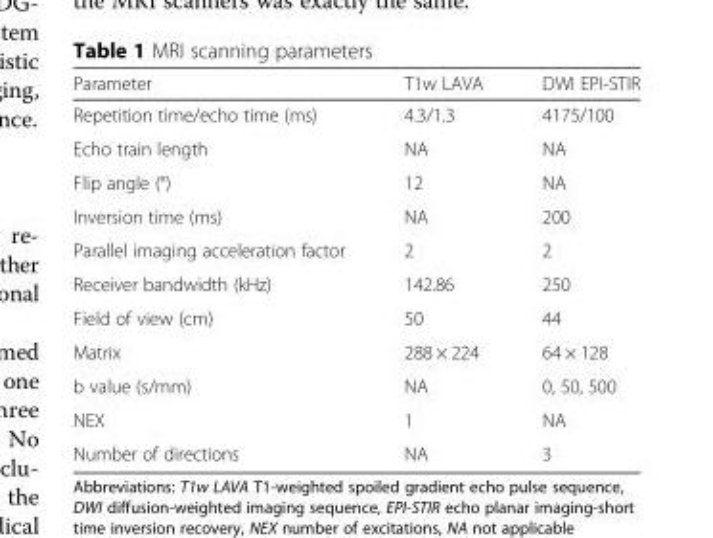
<table><thead><tr><td>Parameter</td><td>T1w LAVA</td><td>DWI EPI-STIR</td></tr></thead><tbody><tr><td>Repetition time/echo time (ms)</td><td>4.3/1.3</td><td>4175/100</td></tr><tr><td>Echo train length</td><td>NA</td><td>NA</td></tr><tr><td>Flip angle (°)</td><td>12</td><td>NA</td></tr><tr><td>Inversion time (ms)</td><td>NA</td><td>200</td></tr><tr><td>Parallel imaging acceleration factor</td><td>2</td><td>2</td></tr><tr><td>Receiver bandwidth (kHz)</td><td>142.86</td><td>250</td></tr><tr><td>Field of view (cm)</td><td>50</td><td>44</td></tr><tr><td>Matrix</td><td>288 × 224</td><td>64 × 128</td></tr><tr><td>b value (s/mm)</td><td>NA</td><td>0, 50, 500</td></tr><tr><td>NEX</td><td>1</td><td>NA</td></tr><tr><td>Number of directions</td><td>NA</td><td>3</td></tr></tbody></table>